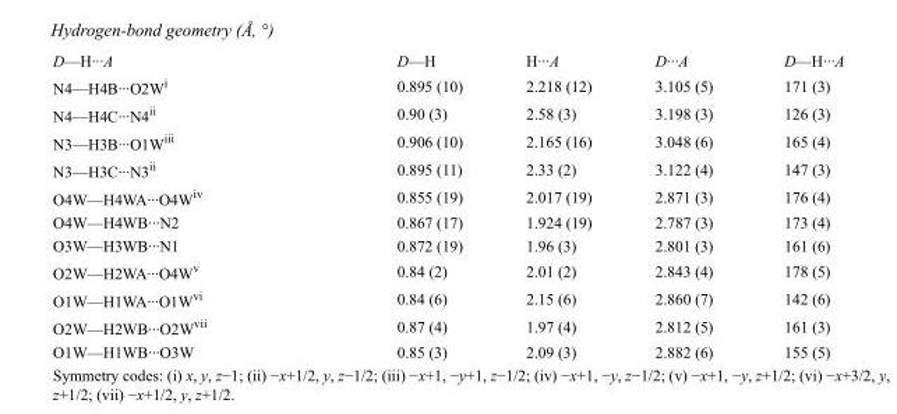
<table><tbody><tr><td>D—H···A</td><td>D—H</td><td>H···A</td><td>D···A</td><td>D—H···A</td></tr><tr><td>N4—H4B···O2W<sup>i</sup></td><td>0.895 (10)</td><td>2.218 (12)</td><td>3.105 (5)</td><td>171 (3)</td></tr><tr><td>N4—H4C···N4<sup>ii</sup></td><td>0.90 (3)</td><td>2.58 (3)</td><td>3.198 (3)</td><td>126 (3)</td></tr><tr><td>N3—H3B···O1W<sup>iii</sup></td><td>0.906 (10)</td><td>2.165 (16)</td><td>3.048 (6)</td><td>165 (4)</td></tr><tr><td>N3—H3C···N3<sup>ii</sup></td><td>0.895 (11)</td><td>2.33 (2)</td><td>3.122 (4)</td><td>147 (3)</td></tr><tr><td>O4W—H4WA···O4W<sup>iv</sup></td><td>0.855 (19)</td><td>2.017 (19)</td><td>2.871 (3)</td><td>176 (4)</td></tr><tr><td>O4W—H4WB···N2</td><td>0.867 (17)</td><td>1.924 (19)</td><td>2.787 (3)</td><td>173 (4)</td></tr><tr><td>O3W—H3WB···N1</td><td>0.872 (19)</td><td>1.96 (3)</td><td>2.801 (3)</td><td>161 (6)</td></tr><tr><td>O2W—H2WA···O4W<sup>v</sup></td><td>0.84 (2)</td><td>2.01 (2)</td><td>2.843 (4)</td><td>178 (5)</td></tr><tr><td>O1W—H1WA···O1W<sup>vi</sup></td><td>0.84 (6)</td><td>2.15 (6)</td><td>2.860 (7)</td><td>142 (6)</td></tr><tr><td>O2W—H2WB···O2W<sup>vii</sup></td><td>0.87 (4)</td><td>1.97 (4)</td><td>2.812 (5)</td><td>161 (3)</td></tr><tr><td>O1W—H1WB···O3W</td><td>0.85 (3)</td><td>2.09 (3)</td><td>2.882 (6)</td><td>155 (5)</td></tr></tbody></table>